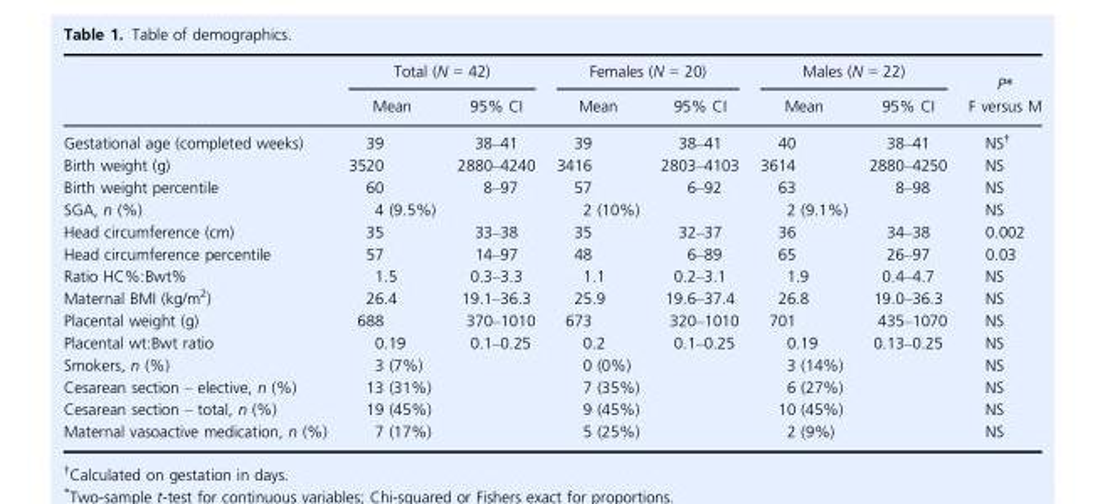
<table><thead><tr><td rowspan="2"></td><td colspan="2">Total (N = 42)</td><td colspan="2">Females (N = 20)</td><td colspan="2">Males (N = 22)</td><td rowspan="2">P* F versus M</td></tr><tr><td>Mean</td><td>95% CI</td><td>Mean</td><td>95% CI</td><td>Mean</td><td>95% CI</td></tr></thead><tbody><tr><td>Gestational age (completed weeks)</td><td>39</td><td>38–41</td><td>39</td><td>38–41</td><td>40</td><td>38–41</td><td>NS†</td></tr><tr><td>Birth weight (g)</td><td>3520</td><td>2880–4240</td><td>3416</td><td>2803–4103</td><td>3614</td><td>2880–4250</td><td>NS</td></tr><tr><td>Birth weight percentile</td><td>60</td><td>8–97</td><td>57</td><td>6–92</td><td>63</td><td>8–98</td><td>NS</td></tr><tr><td>SGA, n (%)</td><td>4 (9.5%)</td><td></td><td>2 (10%)</td><td></td><td>2 (9.1%)</td><td></td><td>NS</td></tr><tr><td>Head circumference (cm)</td><td>35</td><td>33–38</td><td>35</td><td>32–37</td><td>36</td><td>34–38</td><td>0.002</td></tr><tr><td>Head circumference percentile</td><td>57</td><td>14–97</td><td>48</td><td>6–89</td><td>65</td><td>26–97</td><td>0.03</td></tr><tr><td>Ratio HC%:Bwt%</td><td>1.5</td><td>0.3–3.3</td><td>1.1</td><td>0.2–3.1</td><td>1.9</td><td>0.4–4.7</td><td>NS</td></tr><tr><td>Maternal BMI (kg/m<sup>2</sup>)</td><td>26.4</td><td>19.1–36.3</td><td>25.9</td><td>19.6–37.4</td><td>26.8</td><td>19.0–36.3</td><td>NS</td></tr><tr><td>Placental weight (g)</td><td>688</td><td>370–1010</td><td>673</td><td>320–1010</td><td>701</td><td>435–1070</td><td>NS</td></tr><tr><td>Placental wt:Bwt ratio</td><td>0.19</td><td>0.1–0.25</td><td>0.2</td><td>0.1–0.25</td><td>0.19</td><td>0.13–0.25</td><td>NS</td></tr><tr><td>Smokers, n (%)</td><td>3 (7%)</td><td></td><td>0 (0%)</td><td></td><td>3 (14%)</td><td></td><td>NS</td></tr><tr><td>Cesarean section – elective, n (%)</td><td>13 (31%)</td><td></td><td>7 (35%)</td><td></td><td>6 (27%)</td><td></td><td>NS</td></tr><tr><td>Cesarean section – total, n (%)</td><td>19 (45%)</td><td></td><td>9 (45%)</td><td></td><td>10 (45%)</td><td></td><td>NS</td></tr><tr><td>Maternal vasoactive medication, n (%)</td><td>7 (17%)</td><td></td><td>5 (25%)</td><td></td><td>2 (9%)</td><td></td><td>NS</td></tr></tbody></table>